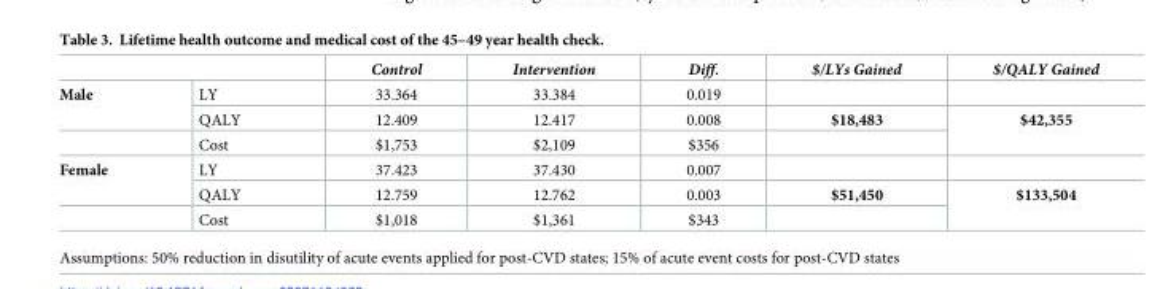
<table><thead><tr><td></td><td></td><td>Control</td><td>Intervention</td><td>Diff.</td><td>$/LYs Gained</td><td>$/QALY Gained</td></tr></thead><tbody><tr><td rowspan="3">Male</td><td>LY</td><td>33.364</td><td>33.384</td><td>0.019</td><td></td><td></td></tr><tr><td>QALY</td><td>12.409</td><td>12.417</td><td>0.008</td><td>$18,483</td><td rowspan="2">$42,355</td></tr><tr><td>Cost</td><td>$1,753</td><td>$2,109</td><td>$356</td><td></td></tr><tr><td rowspan="3">Female</td><td>LY</td><td>37.423</td><td>37.430</td><td>0.007</td><td></td><td></td></tr><tr><td>QALY</td><td>12.759</td><td>12.762</td><td>0.003</td><td>$51,450</td><td rowspan="2">$133,504</td></tr><tr><td>Cost</td><td>$1,018</td><td>$1,361</td><td>$343</td><td></td></tr></tbody></table>